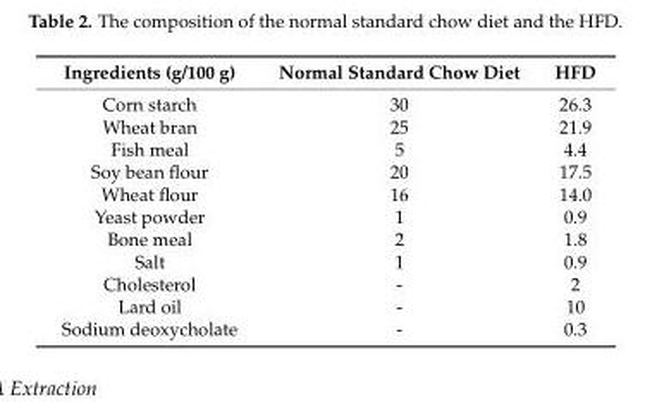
<table><thead><tr><td>Ingredients (g/100 g)</td><td>Normal Standard Chow Diet</td><td>HFD</td></tr></thead><tbody><tr><td>Corn starch</td><td>30</td><td>26.3</td></tr><tr><td>Wheat bran</td><td>25</td><td>21.9</td></tr><tr><td>Fish meal</td><td>5</td><td>4.4</td></tr><tr><td>Soy bean flour</td><td>20</td><td>17.5</td></tr><tr><td>Wheat flour</td><td>16</td><td>14.0</td></tr><tr><td>Yeast powder</td><td>1</td><td>0.9</td></tr><tr><td>Bone meal</td><td>2</td><td>1.8</td></tr><tr><td>Salt</td><td>1</td><td>0.9</td></tr><tr><td>Cholesterol</td><td>-</td><td>2</td></tr><tr><td>Lard oil</td><td>-</td><td>10</td></tr><tr><td>Sodium deoxycholate</td><td>-</td><td>0.3</td></tr></tbody></table>